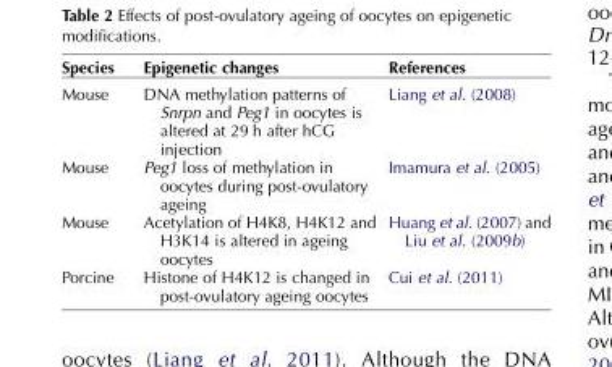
<table><thead><tr><td>Species</td><td>Epigenetic changes</td><td>References</td></tr></thead><tbody><tr><td>Mouse</td><td>DNA methylation patterns of Snrpn and Peg1 in oocytes is altered at 29 h after hCG injection</td><td>Liang et al. (2008)</td></tr><tr><td>Mouse</td><td>Peg1 loss of methylation in oocytes during post-ovulatory ageing</td><td>Imamura et al. (2005)</td></tr><tr><td>Mouse</td><td>Acetylation of H4K8, H4K12 and H3K14 is altered in ageing oocytes</td><td>Huang et al. (2007) and Liu et al. (2009b)</td></tr><tr><td>Porcine</td><td>Histone of H4K12 is changed in post-ovulatory ageing oocytes</td><td>Cui et al. (2011)</td></tr></tbody></table>